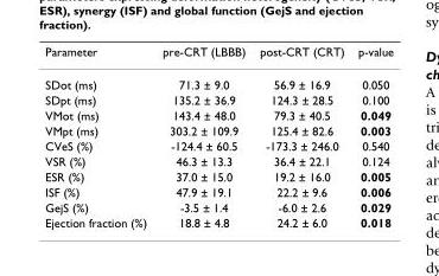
<table><thead><tr><td>Parameter</td><td>pre-CRT (LBBB)</td><td>post-CRT (CRT)</td><td>p-value</td></tr></thead><tbody><tr><td>SDot (ms)</td><td>71.3 ± 9.0</td><td>56.9 ± 16.9</td><td>0.050</td></tr><tr><td>SDpt (ms)</td><td>135.2 ± 36.9</td><td>124.3 ± 28.5</td><td>0.100</td></tr><tr><td>VMot (ms)</td><td>143.4 ± 48.0</td><td>79.3 ± 40.5</td><td>0.049</td></tr><tr><td>VMpt (ms)</td><td>303.2 ± 109.9</td><td>125.4 ± 82.6</td><td>0.003</td></tr><tr><td>CVeS (%)</td><td>-124.4 ± 60.5</td><td>-173.3 ± 246.0</td><td>0.540</td></tr><tr><td>VSR (%)</td><td>46.3 ± 13.3</td><td>36.4 ± 22.1</td><td>0.124</td></tr><tr><td>ESR (%)</td><td>37.0 ± 15.0</td><td>19.2 ± 16.0</td><td>0.005</td></tr><tr><td>ISF (%)</td><td>47.9 ± 19.1</td><td>22.2 ± 9.6</td><td>0.006</td></tr><tr><td>GejS (%)</td><td>-3.5 ± 1.4</td><td>-6.0 ± 2.6</td><td>0.029</td></tr><tr><td>Ejection fraction (%)</td><td>18.8 ± 4.8</td><td>24.2 ± 6.0</td><td>0.018</td></tr></tbody></table>